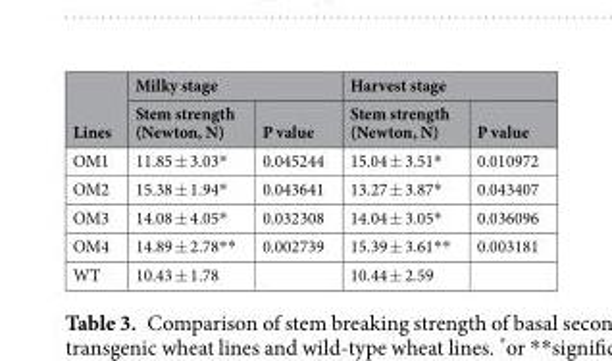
<table><thead><tr><td rowspan="2">Lines</td><td colspan="2">Milky stage</td><td colspan="2">Harvest stage</td></tr><tr><td>Stem strength (Newton, N)</td><td>P value</td><td>Stem strength (Newton, N)</td><td>P value</td></tr></thead><tbody><tr><td>OM1</td><td>11.85 ± 3.03*</td><td>0.045244</td><td>15.04 ± 3.51*</td><td>0.010972</td></tr><tr><td>OM2</td><td>15.38 ± 1.94*</td><td>0.043641</td><td>13.27 ± 3.87*</td><td>0.043407</td></tr><tr><td>OM3</td><td>14.08 ± 4.05*</td><td>0.032308</td><td>14.04 ± 3.05*</td><td>0.036096</td></tr><tr><td>OM4</td><td>14.89 ± 2.78**</td><td>0.002739</td><td>15.39 ± 3.61**</td><td>0.003181</td></tr><tr><td>WT</td><td>10.43 ± 1.78</td><td></td><td>10.44 ± 2.59</td><td></td></tr></tbody></table>